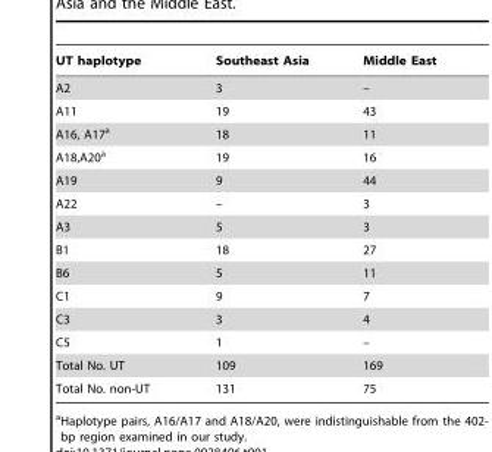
<table><thead><tr><td>UT haplotype</td><td>Southeast Asia</td><td>Middle East</td></tr></thead><tbody><tr><td>A2</td><td>3</td><td>–</td></tr><tr><td>A11</td><td>19</td><td>43</td></tr><tr><td>A16, A17<sup>a</sup></td><td>18</td><td>11</td></tr><tr><td>A18,A20<sup>a</sup></td><td>19</td><td>16</td></tr><tr><td>A19</td><td>9</td><td>44</td></tr><tr><td>A22</td><td>–</td><td>3</td></tr><tr><td>A3</td><td>5</td><td>3</td></tr><tr><td>B1</td><td>18</td><td>27</td></tr><tr><td>B6</td><td>5</td><td>11</td></tr><tr><td>C1</td><td>9</td><td>7</td></tr><tr><td>C3</td><td>3</td><td>4</td></tr><tr><td>C5</td><td>1</td><td>–</td></tr><tr><td>Total No. UT</td><td>109</td><td>169</td></tr><tr><td>Total No. non-UT</td><td>131</td><td>75</td></tr></tbody></table>